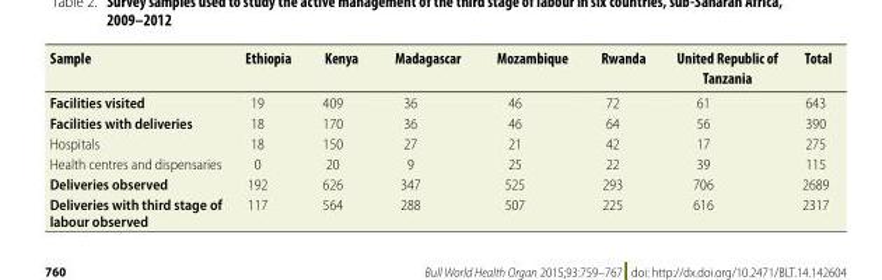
<table><thead><tr><td>Sample</td><td>Ethiopia</td><td>Kenya</td><td>Madagascar</td><td>Mozambique</td><td>Rwanda</td><td>United Republic of Tanzania</td><td>Total</td></tr></thead><tbody><tr><td>Facilities visited</td><td>19</td><td>409</td><td>36</td><td>46</td><td>72</td><td>61</td><td>643</td></tr><tr><td>Facilities with deliveries</td><td>18</td><td>170</td><td>36</td><td>46</td><td>64</td><td>56</td><td>390</td></tr><tr><td>Hospitals</td><td>18</td><td>150</td><td>27</td><td>21</td><td>42</td><td>17</td><td>275</td></tr><tr><td>Health centres and dispensaries</td><td>0</td><td>20</td><td>9</td><td>25</td><td>22</td><td>39</td><td>115</td></tr><tr><td>Deliveries observed</td><td>192</td><td>626</td><td>347</td><td>525</td><td>293</td><td>706</td><td>2689</td></tr><tr><td>Deliveries with third stage of labour observed</td><td>117</td><td>564</td><td>288</td><td>507</td><td>225</td><td>616</td><td>2317</td></tr></tbody></table>